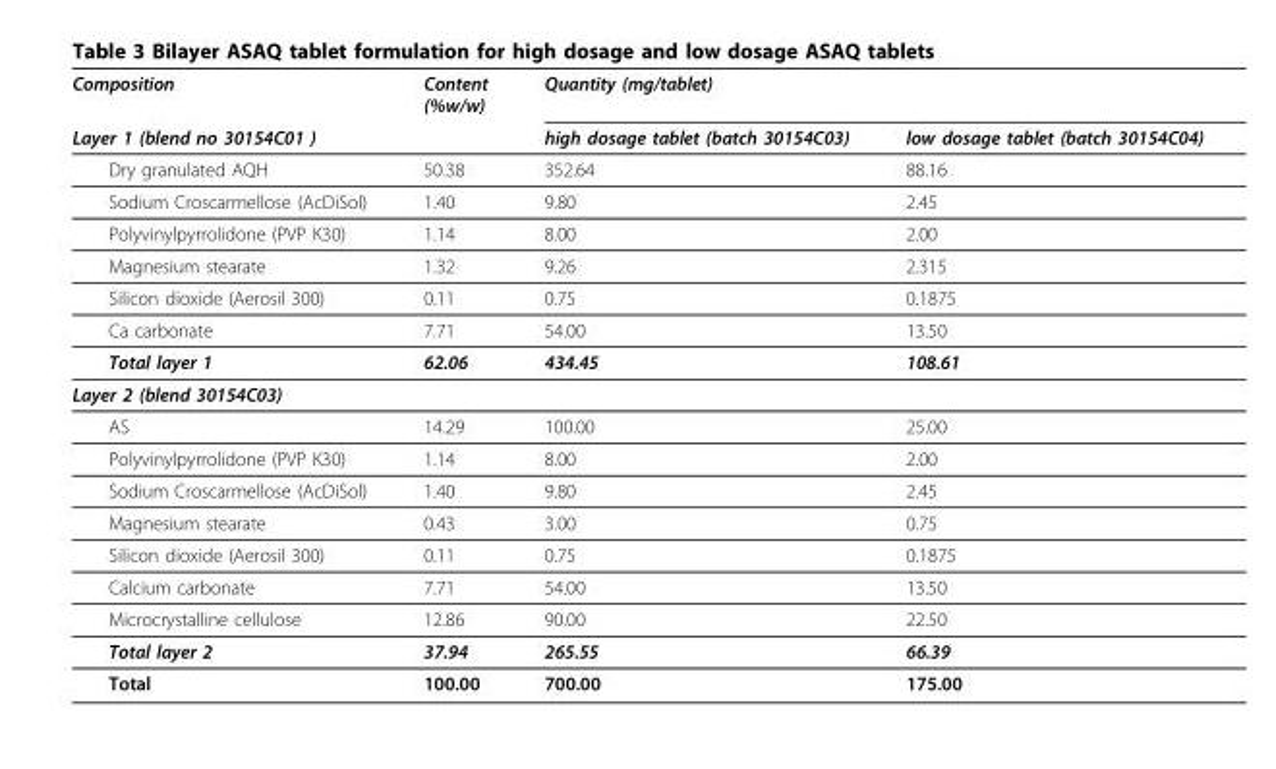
<table><thead><tr><td rowspan="2">Composition Layer 1 (blend no 30154C01 )</td><td rowspan="2">Content (%w/w)</td><td colspan="2">Quantity (mg/tablet)</td></tr><tr><td>high dosage tablet (batch 30154C03)</td><td>low dosage tablet (batch 30154C04)</td></tr></thead><tbody><tr><td>Dry granulated AQH</td><td>50.38</td><td>352.64</td><td>88.16</td></tr><tr><td>Sodium Croscarmellose (AcDiSol)</td><td>1.40</td><td>9.80</td><td>2.45</td></tr><tr><td>Polyvinylpyrrolidone (PVP K30)</td><td>1.14</td><td>8.00</td><td>2.00</td></tr><tr><td>Magnesium stearate</td><td>1.32</td><td>9.26</td><td>2.315</td></tr><tr><td>Silicon dioxide (Aerosil 300)</td><td>0.11</td><td>0.75</td><td>0.1875</td></tr><tr><td>Ca carbonate</td><td>7.71</td><td>54.00</td><td>13.50</td></tr><tr><td>Total layer 1</td><td>62.06</td><td>434.45</td><td>108.61</td></tr><tr><td colspan="4">Layer 2 (blend 30154C03)</td></tr><tr><td>AS</td><td>14.29</td><td>100.00</td><td>25.00</td></tr><tr><td>Polyvinylpyrrolidone (PVP K30)</td><td>1.14</td><td>8.00</td><td>2.00</td></tr><tr><td>Sodium Croscarmellose (AcDiSol)</td><td>1.40</td><td>9.80</td><td>2.45</td></tr><tr><td>Magnesium stearate</td><td>0.43</td><td>3.00</td><td>0.75</td></tr><tr><td>Silicon dioxide (Aerosil 300)</td><td>0.11</td><td>0.75</td><td>0.1875</td></tr><tr><td>Calcium carbonate</td><td>7.71</td><td>54.00</td><td>13.50</td></tr><tr><td>Microcrystalline cellulose</td><td>12.86</td><td>90.00</td><td>22.50</td></tr><tr><td>Total layer 2</td><td>37.94</td><td>265.55</td><td>66.39</td></tr><tr><td>Total</td><td>100.00</td><td>700.00</td><td>175.00</td></tr></tbody></table>